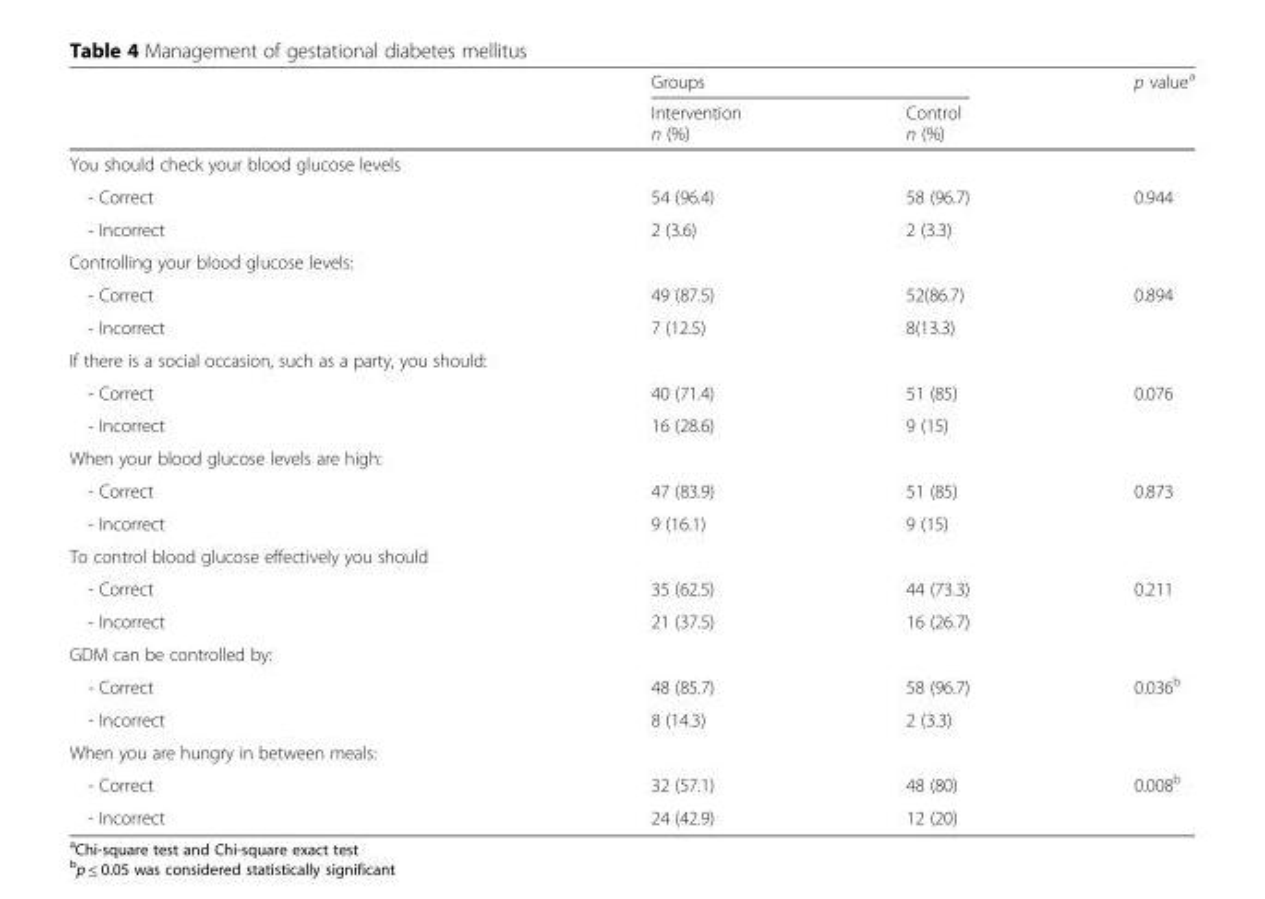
<table><thead><tr><td rowspan="2"></td><td colspan="2">Groups</td><td rowspan="2">p value<sup>a</sup></td></tr><tr><td>Intervention n (%)</td><td>Control n (%)</td></tr></thead><tbody><tr><td colspan="4">You should check your blood glucose levels</td></tr><tr><td>- Correct</td><td>54 (96.4)</td><td>58 (96.7)</td><td>0.944</td></tr><tr><td>- Incorrect</td><td>2 (3.6)</td><td>2 (3.3)</td><td></td></tr><tr><td colspan="4">Controlling your blood glucose levels:</td></tr><tr><td>- Correct</td><td>49 (87.5)</td><td>52(86.7)</td><td>0.894</td></tr><tr><td>- Incorrect</td><td>7 (12.5)</td><td>8(13.3)</td><td></td></tr><tr><td colspan="4">If there is a social occasion, such as a party, you should:</td></tr><tr><td>- Correct</td><td>40 (71.4)</td><td>51 (85)</td><td>0.076</td></tr><tr><td>- Incorrect</td><td>16 (28.6)</td><td>9 (15)</td><td></td></tr><tr><td colspan="4">When your blood glucose levels are high:</td></tr><tr><td>- Correct</td><td>47 (83.9)</td><td>51 (85)</td><td>0.873</td></tr><tr><td>- Incorrect</td><td>9 (16.1)</td><td>9 (15)</td><td></td></tr><tr><td colspan="4">To control blood glucose effectively you should</td></tr><tr><td>- Correct</td><td>35 (62.5)</td><td>44 (73.3)</td><td>0.211</td></tr><tr><td>- Incorrect</td><td>21 (37.5)</td><td>16 (26.7)</td><td></td></tr><tr><td colspan="4">GDM can be controlled by:</td></tr><tr><td>- Correct</td><td>48 (85.7)</td><td>58 (96.7)</td><td>0.036<sup>b</sup></td></tr><tr><td>- Incorrect</td><td>8 (14.3)</td><td>2 (3.3)</td><td></td></tr><tr><td colspan="4">When you are hungry in between meals:</td></tr><tr><td>- Correct</td><td>32 (57.1)</td><td>48 (80)</td><td>0.008<sup>b</sup></td></tr><tr><td>- Incorrect</td><td>24 (42.9)</td><td>12 (20)</td><td></td></tr></tbody></table>